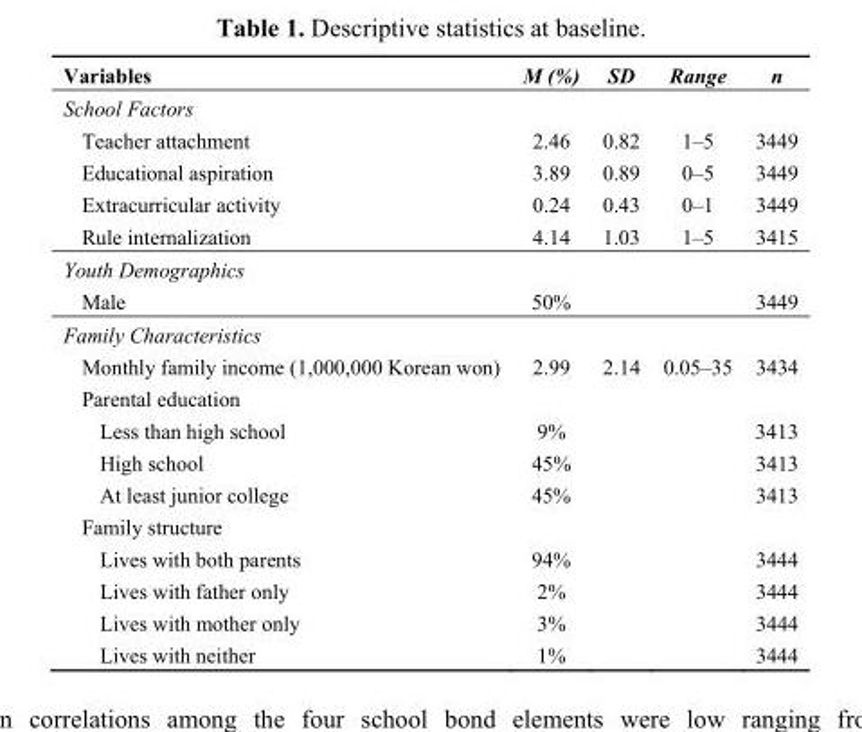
<table><thead><tr><td>Variables</td><td>M (%)</td><td>SD</td><td>Range</td><td>n</td></tr></thead><tbody><tr><td colspan="5">School Factors</td></tr><tr><td>Teacher attachment</td><td>2.46</td><td>0.82</td><td>1–5</td><td>3449</td></tr><tr><td>Educational aspiration</td><td>3.89</td><td>0.89</td><td>0–5</td><td>3449</td></tr><tr><td>Extracurricular activity</td><td>0.24</td><td>0.43</td><td>0–1</td><td>3449</td></tr><tr><td>Rule internalization</td><td>4.14</td><td>1.03</td><td>1–5</td><td>3415</td></tr><tr><td colspan="5">Youth Demographics</td></tr><tr><td>Male</td><td>50%</td><td></td><td></td><td>3449</td></tr><tr><td colspan="5">Family Characteristics</td></tr><tr><td>Monthly family income (1,000,000 Korean won)</td><td>2.99</td><td>2.14</td><td>0.05–35</td><td>3434</td></tr><tr><td colspan="5">Parental education</td></tr><tr><td>Less than high school</td><td>9%</td><td></td><td></td><td>3413</td></tr><tr><td>High school</td><td>45%</td><td></td><td></td><td>3413</td></tr><tr><td>At least junior college</td><td>45%</td><td></td><td></td><td>3413</td></tr><tr><td colspan="5">Family structure</td></tr><tr><td>Lives with both parents</td><td>94%</td><td></td><td></td><td>3444</td></tr><tr><td>Lives with father only</td><td>2%</td><td></td><td></td><td>3444</td></tr><tr><td>Lives with mother only</td><td>3%</td><td></td><td></td><td>3444</td></tr><tr><td>Lives with neither</td><td>1%</td><td></td><td></td><td>3444</td></tr></tbody></table>